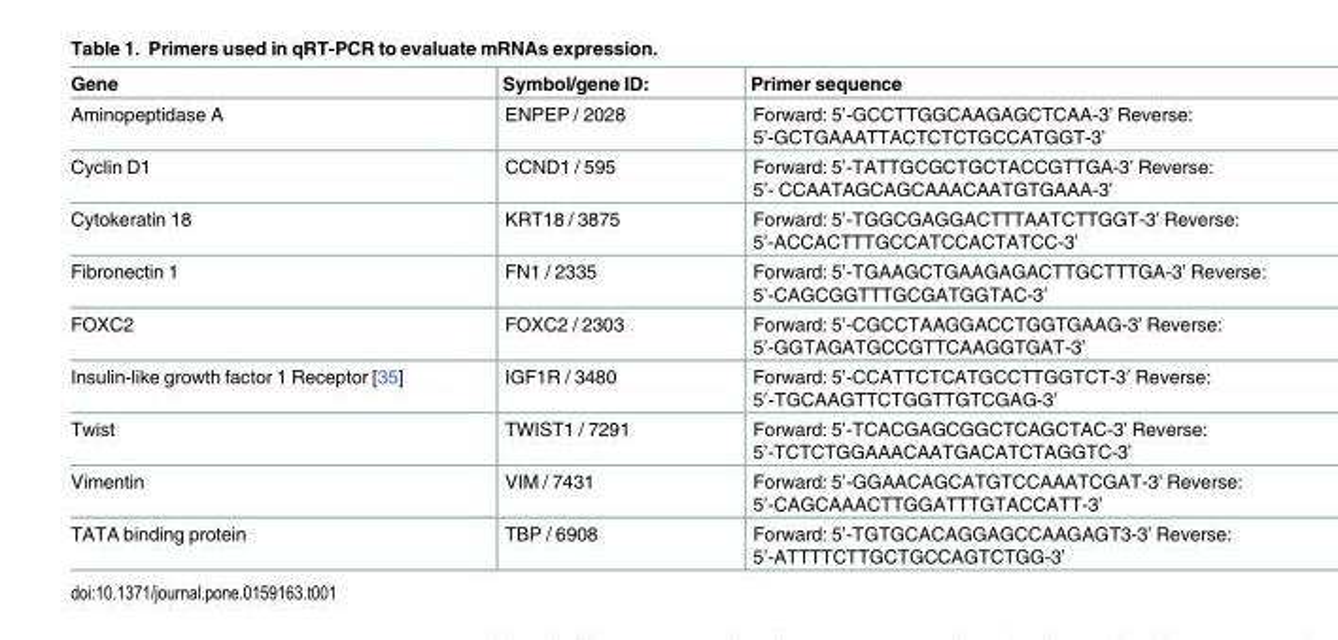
<table><thead><tr><td>Gene</td><td>Symbol/gene ID:</td><td>Primer sequence</td></tr></thead><tbody><tr><td>Aminopeptidase A</td><td>ENPEP / 2028</td><td>Forward: 5’-GCCTTGGCAAGAGCTCAA-3’ Reverse: 5’-GCTGAAATTACTCTCTGCCATGGT-3’</td></tr><tr><td>Cyclin D1</td><td>CCND1 / 595</td><td>Forward: 5’-TATTGCGCTGCTACCGTTGA-3’ Reverse: 5’- CCAATAGCAGCAAACAATGTGAAA-3’</td></tr><tr><td>Cytokeratin 18</td><td>KRT18 / 3875</td><td>Forward: 5’-TGGCGAGGACTTTAATCTTGGT-3’ Reverse: 5’-ACCACTTTGCCATCCACTATCC-3’</td></tr><tr><td>Fibronectin 1</td><td>FN1 / 2335</td><td>Forward: 5’-TGAAGCTGAAGAGACTTGCTTTGA-3’ Reverse: 5’-CAGCGGTTTGCGATGGTAC-3’</td></tr><tr><td>FOXC2</td><td>FOXC2 / 2303</td><td>Forward: 5’-CGCCTAAGGACCTGGTGAAG-3’ Reverse: 5’-GGTAGATGCCGTTCAAGGTGAT-3’</td></tr><tr><td>Insulin-like growth factor 1 Receptor [35]</td><td>IGF1R / 3480</td><td>Forward: 5’-CCATTCTCATGCCTTGGTCT-3′ Reverse: 5′-TGCAAGTTCTGGTTGTCGAG-3′</td></tr><tr><td>Twist</td><td>TWIST1 / 7291</td><td>Forward: 5’-TCACGAGCGGCTCAGCTAC-3’ Reverse: 5’-TCTCTGGAAACAATGACATCTAGGTC-3’</td></tr><tr><td>Vimentin</td><td>VIM / 7431</td><td>Forward: 5’-GGAACAGCATGTCCAAATCGAT-3’ Reverse: 5’-CAGCAAACTTGGATTTGTACCATT-3’</td></tr><tr><td>TATA binding protein</td><td>TBP / 6908</td><td>Forward: 5’-TGTGCACAGGAGCCAAGAGT3-3’ Reverse: 5’-ATTTTCTTGCTGCCAGTCTGG-3’</td></tr></tbody></table>